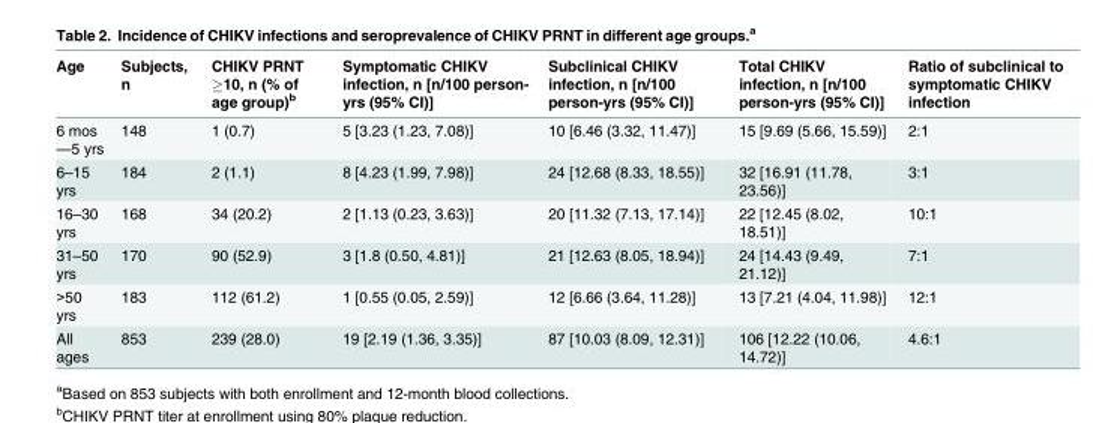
<table><thead><tr><td>Age</td><td>Subjects, n</td><td>CHIKV PRNT ≥10, n (% of age group)<sup>b</sup></td><td>Symptomatic CHIKV infection, n [n/100 person- yrs (95% CI)]</td><td>Subclinical CHIKV infection, n [n/100 person-yrs (95% CI)]</td><td>Total CHIKV infection, n [n/100 person-yrs (95% CI)]</td><td>Ratio of subclinical to symptomatic CHIKV infection</td></tr></thead><tbody><tr><td>6 mos —5 yrs</td><td>148</td><td>1 (0.7)</td><td>5 [3.23 (1.23, 7.08)]</td><td>10 [6.46 (3.32, 11.47)]</td><td>15 [9.69 (5.66, 15.59)]</td><td>2:1</td></tr><tr><td>6–15 yrs</td><td>184</td><td>2 (1.1)</td><td>8 [4.23 (1.99, 7.98)]</td><td>24 [12.68 (8.33, 18.55)]</td><td>32 [16.91 (11.78, 23.56)]</td><td>3:1</td></tr><tr><td>16–30 yrs</td><td>168</td><td>34 (20.2)</td><td>2 [1.13 (0.23, 3.63)]</td><td>20 [11.32 (7.13, 17.14)]</td><td>22 [12.45 (8.02, 18.51)]</td><td>10:1</td></tr><tr><td>31–50 yrs</td><td>170</td><td>90 (52.9)</td><td>3 [1.8 (0.50, 4.81)]</td><td>21 [12.63 (8.05, 18.94)]</td><td>24 [14.43 (9.49, 21.12)]</td><td>7:1</td></tr><tr><td>&gt;50 yrs</td><td>183</td><td>112 (61.2)</td><td>1 [0.55 (0.05, 2.59)]</td><td>12 [6.66 (3.64, 11.28)]</td><td>13 [7.21 (4.04, 11.98)]</td><td>12:1</td></tr><tr><td>All ages</td><td>853</td><td>239 (28.0)</td><td>19 [2.19 (1.36, 3.35)]</td><td>87 [10.03 (8.09, 12.31)]</td><td>106 [12.22 (10.06, 14.72)]</td><td>4.6:1</td></tr></tbody></table>